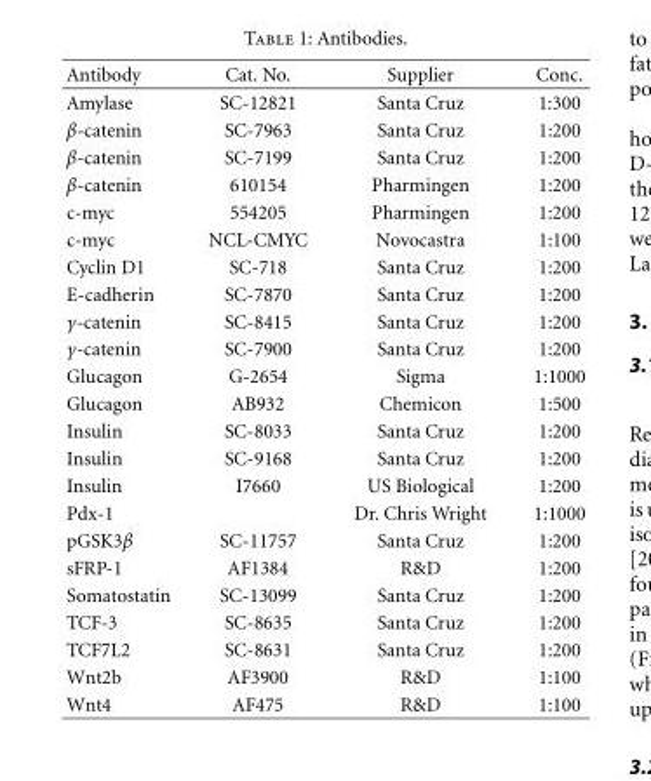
<table><thead><tr><td>Antibody</td><td>Cat. No.</td><td>Supplier</td><td>Conc.</td></tr></thead><tbody><tr><td>Amylase</td><td>SC-12821</td><td>Santa Cruz</td><td>1:300</td></tr><tr><td>β-catenin</td><td>SC-7963</td><td>Santa Cruz</td><td>1:200</td></tr><tr><td>β-catenin</td><td>SC-7199</td><td>Santa Cruz</td><td>1:200</td></tr><tr><td>β-catenin</td><td>610154</td><td>Pharmingen</td><td>1:200</td></tr><tr><td>c-myc</td><td>554205</td><td>Pharmingen</td><td>1:200</td></tr><tr><td>c-myc</td><td>NCL-CMYC</td><td>Novocastra</td><td>1:100</td></tr><tr><td>Cyclin D1</td><td>SC-718</td><td>Santa Cruz</td><td>1:200</td></tr><tr><td>E-cadherin</td><td>SC-7870</td><td>Santa Cruz</td><td>1:200</td></tr><tr><td>γ-catenin</td><td>SC-8415</td><td>Santa Cruz</td><td>1:200</td></tr><tr><td>γ-catenin</td><td>SC-7900</td><td>Santa Cruz</td><td>1:200</td></tr><tr><td>Glucagon</td><td>G-2654</td><td>Sigma</td><td>1:1000</td></tr><tr><td>Glucagon</td><td>AB932</td><td>Chemicon</td><td>1:500</td></tr><tr><td>Insulin</td><td>SC-8033</td><td>Santa Cruz</td><td>1:200</td></tr><tr><td>Insulin</td><td>SC-9168</td><td>Santa Cruz</td><td>1:200</td></tr><tr><td>Insulin</td><td>I7660</td><td>US Biological</td><td>1:200</td></tr><tr><td>Pdx-1</td><td></td><td>Dr. Chris Wright</td><td>1:1000</td></tr><tr><td>pGSK3β</td><td>SC-11757</td><td>Santa Cruz</td><td>1:200</td></tr><tr><td>sFRP-1</td><td>AF1384</td><td>R&amp;D</td><td>1:200</td></tr><tr><td>Somatostatin</td><td>SC-13099</td><td>Santa Cruz</td><td>1:200</td></tr><tr><td>TCF-3</td><td>SC-8635</td><td>Santa Cruz</td><td>1:200</td></tr><tr><td>TCF7L2</td><td>SC-8631</td><td>Santa Cruz</td><td>1:200</td></tr><tr><td>Wnt2b</td><td>AF3900</td><td>R&amp;D</td><td>1:100</td></tr><tr><td>Wnt4</td><td>AF475</td><td>R&amp;D</td><td>1:100</td></tr></tbody></table>